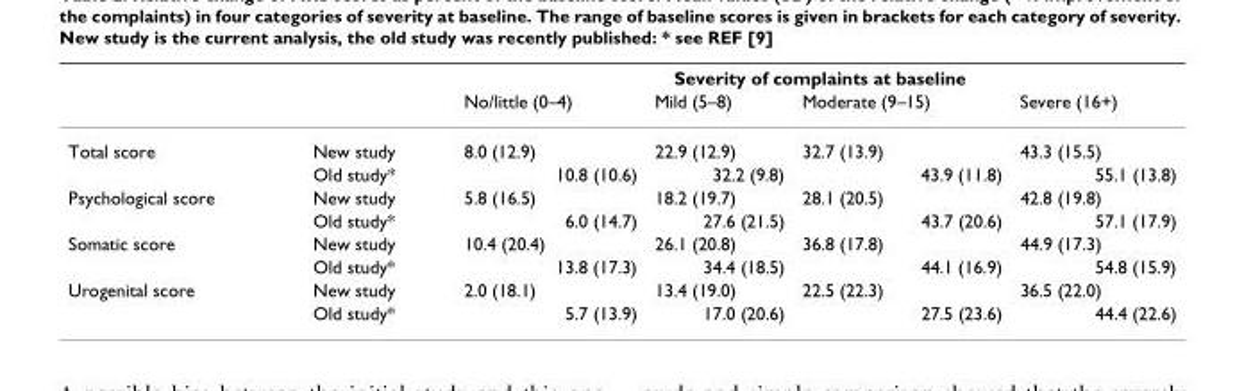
<table><thead><tr><td rowspan="2"></td><td rowspan="2"></td><td colspan="4">Severity of complaints at baseline</td></tr><tr><td>No/little (0–4)</td><td>Mild (5–8)</td><td>Moderate (9–15)</td><td>Severe (16+)</td></tr></thead><tbody><tr><td rowspan="2">Total score</td><td>New study</td><td>8.0 (12.9)</td><td>22.9 (12.9)</td><td>32.7 (13.9)</td><td>43.3 (15.5)</td></tr><tr><td>Old study*</td><td>10.8 (10.6)</td><td>32.2 (9.8)</td><td>43.9 (11.8)</td><td>55.1 (13.8)</td></tr><tr><td rowspan="2">Psychological score</td><td>New study</td><td>5.8 (16.5)</td><td>18.2 (19.7)</td><td>28.1 (20.5)</td><td>42.8 (19.8)</td></tr><tr><td>Old study*</td><td>6.0 (14.7)</td><td>27.6 (21.5)</td><td>43.7 (20.6)</td><td>57.1 (17.9)</td></tr><tr><td rowspan="2">Somatic score</td><td>New study</td><td>10.4 (20.4)</td><td>26.1 (20.8)</td><td>36.8 (17.8)</td><td>44.9 (17.3)</td></tr><tr><td>Old study*</td><td>13.8 (17.3)</td><td>34.4 (18.5)</td><td>44.1 (16.9)</td><td>54.8 (15.9)</td></tr><tr><td rowspan="2">Urogenital score</td><td>New study</td><td>2.0 (18.1)</td><td>13.4 (19.0)</td><td>22.5 (22.3)</td><td>36.5 (22.0)</td></tr><tr><td>Old study*</td><td>5.7 (13.9)</td><td>17.0 (20.6)</td><td>27.5 (23.6)</td><td>44.4 (22.6)</td></tr></tbody></table>